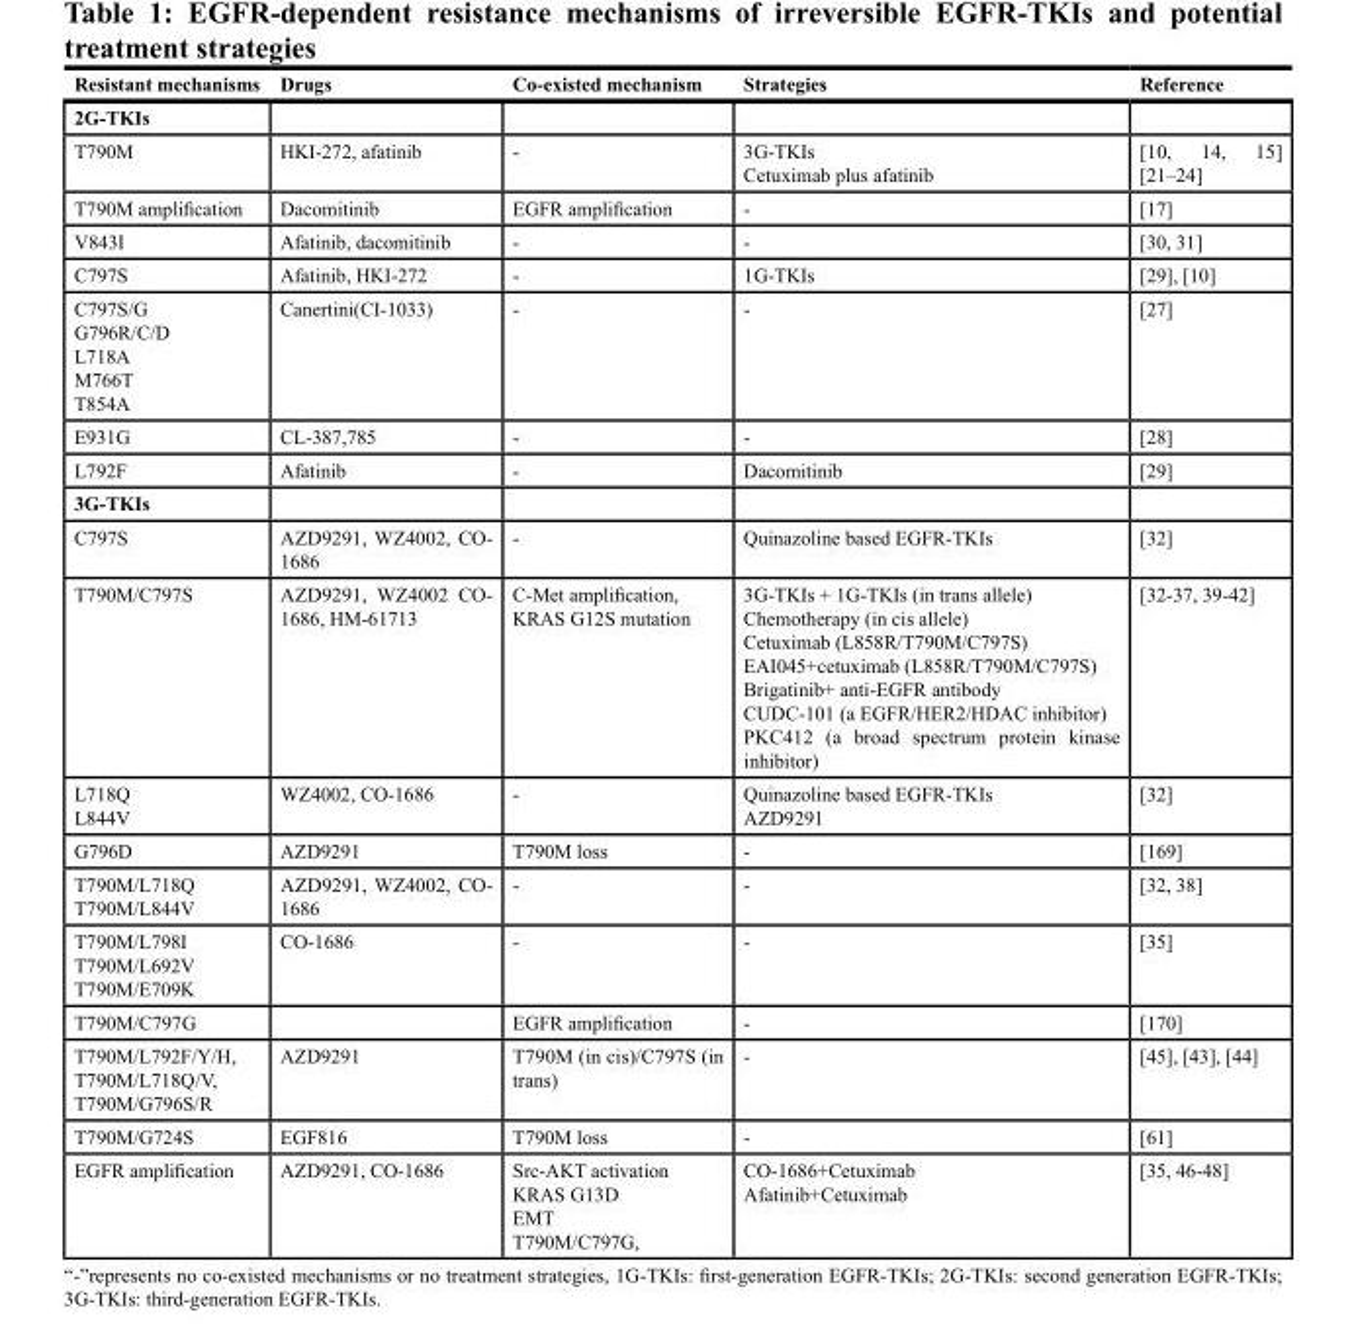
<table><thead><tr><td>Resistant mechanisms</td><td>Drugs</td><td>Co-existed mechanism</td><td>Strategies</td><td>Reference</td></tr></thead><tbody><tr><td colspan="5">2G-TKIs</td></tr><tr><td>T790M</td><td>HKI-272, afatinib</td><td>-</td><td>3G-TKIs Cetuximab plus afatinib</td><td>[10, 14, 15] [21–24]</td></tr><tr><td>T790M amplification</td><td>Dacomitinib</td><td>EGFR amplification</td><td>-</td><td>[17]</td></tr><tr><td>V843I</td><td>Afatinib, dacomitinib</td><td>-</td><td>-</td><td>[30, 31]</td></tr><tr><td>C797S</td><td>Afatinib, HKI-272</td><td>-</td><td>1G-TKIs</td><td>[29], [10]</td></tr><tr><td>C797S/G G796R/C/D L718A M766T T854A</td><td>Canertini(CI-1033)</td><td>-</td><td>-</td><td>[27]</td></tr><tr><td>E931G</td><td>CL-387,785</td><td>-</td><td>-</td><td>[28]</td></tr><tr><td>L792F</td><td>Afatinib</td><td>-</td><td>Dacomitinib</td><td>[29]</td></tr><tr><td colspan="5">3G-TKIs</td></tr><tr><td>C797S</td><td>AZD9291, WZ4002, CO- 1686</td><td>-</td><td>Quinazoline based EGFR-TKIs</td><td>[32]</td></tr><tr><td>T790M/C797S</td><td>AZD9291, WZ4002 CO- 1686, HM-61713</td><td>C-Met amplification, KRAS G12S mutation</td><td>3G-TKIs + 1G-TKIs (in trans allele) Chemotherapy (in cis allele) Cetuximab (L858R/T790M/C797S) EAI045+cetuximab (L858R/T790M/C797S) Brigatinib+ anti-EGFR antibody CUDC-101 (a EGFR/HER2/HDAC inhibitor) PKC412 (a broad spectrum protein kinase inhibitor)</td><td>[32-37, 39-42]</td></tr><tr><td>L718Q L844V</td><td>WZ4002, CO-1686</td><td>-</td><td>Quinazoline based EGFR-TKIs AZD9291</td><td>[32]</td></tr><tr><td>G796D</td><td>AZD9291</td><td>T790M loss</td><td>-</td><td>[169]</td></tr><tr><td>T790M/L718Q T790M/L844V</td><td>AZD9291, WZ4002, CO- 1686</td><td>-</td><td>-</td><td>[32, 38]</td></tr><tr><td>T790M/L798I T790M/L692V T790M/E709K</td><td>CO-1686</td><td>-</td><td>-</td><td>[35]</td></tr><tr><td>T790M/C797G</td><td></td><td>EGFR amplification</td><td>-</td><td>[170]</td></tr><tr><td>T790M/L792F/Y/H, T790M/L718Q/V, T790M/G796S/R</td><td>AZD9291</td><td>T790M (in cis)/C797S (in trans)</td><td>-</td><td>[45], [43], [44]</td></tr><tr><td>T790M/G724S</td><td>EGF816</td><td>T790M loss</td><td>-</td><td>[61]</td></tr><tr><td>EGFR amplification</td><td>AZD9291, CO-1686</td><td>Src-AKT activation KRAS G13D EMT T790M/C797G,</td><td>CO-1686+Cetuximab Afatinib+Cetuximab</td><td>[35, 46-48]</td></tr></tbody></table>